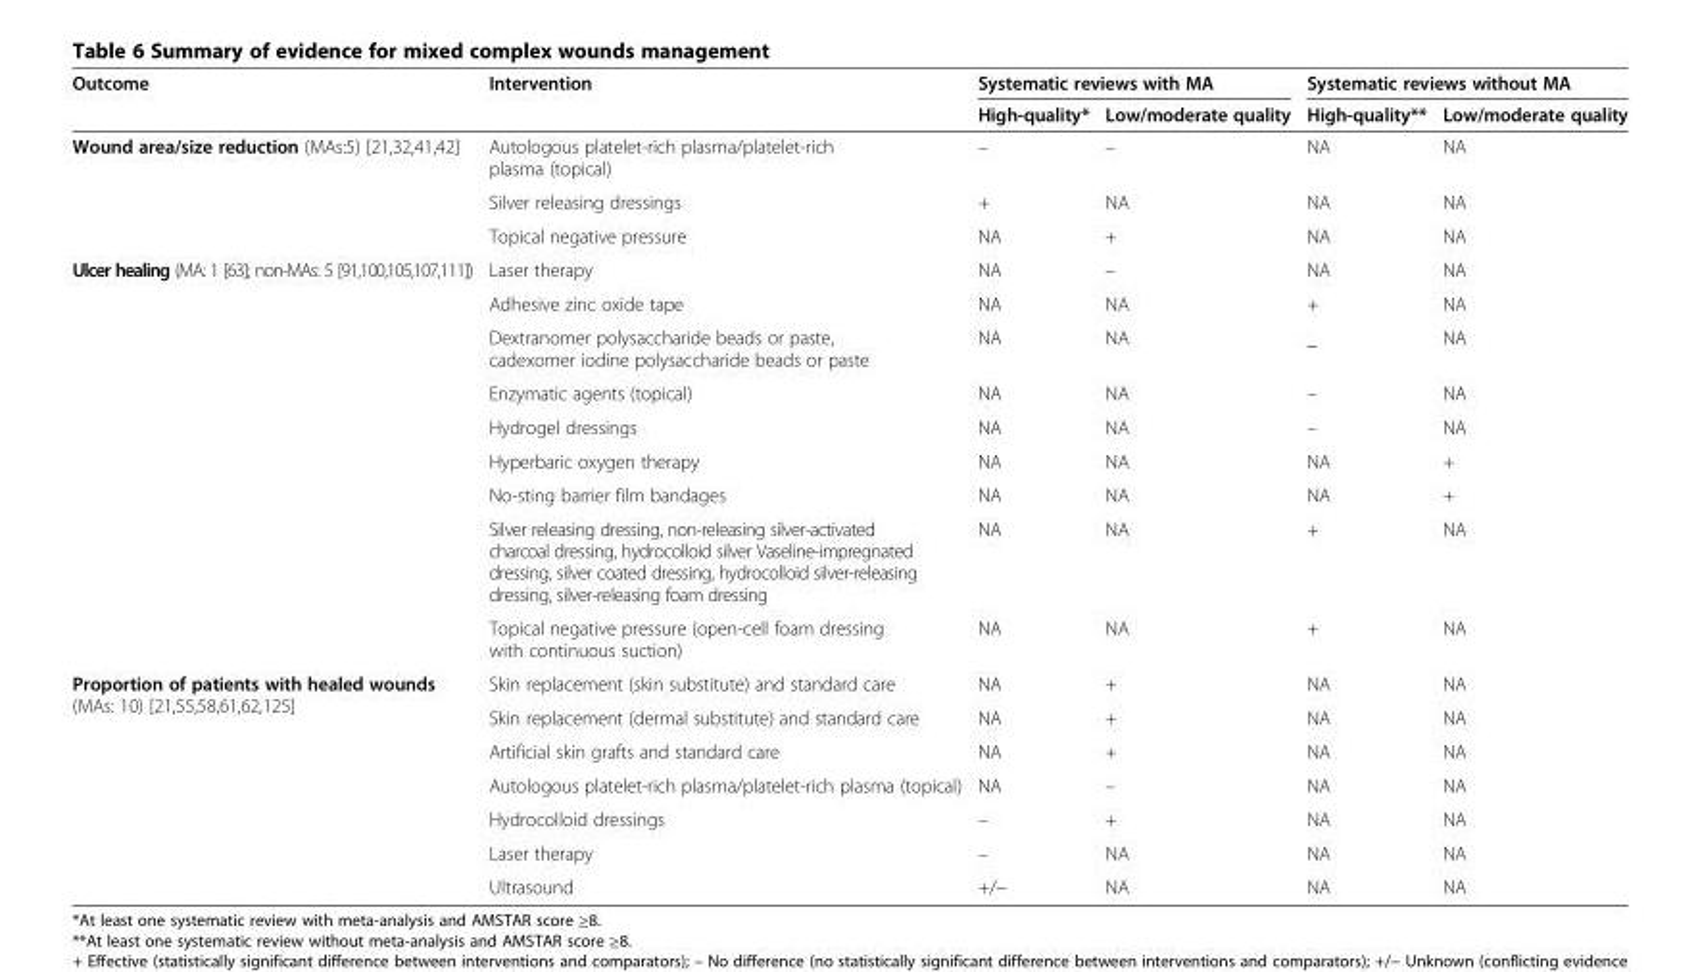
<table><thead><tr><td rowspan="2">Outcome</td><td rowspan="2">Intervention</td><td colspan="2">Systematic reviews with MA</td><td colspan="2">Systematic reviews without MA</td></tr><tr><td>High-quality*</td><td>Low/moderate quality</td><td>High-quality**</td><td>Low/moderate quality</td></tr></thead><tbody><tr><td rowspan="3">Wound area/size reduction (MAs:5) [21,32,41,42]</td><td>Autologous platelet-rich plasma/platelet-rich plasma (topical)</td><td>–</td><td>–</td><td>NA</td><td>NA</td></tr><tr><td>Silver releasing dressings</td><td>+</td><td>NA</td><td>NA</td><td>NA</td></tr><tr><td>Topical negative pressure</td><td>NA</td><td>+</td><td>NA</td><td>NA</td></tr><tr><td rowspan="9">Ulcer healing (MA: 1 [63]; non-MAs: 5 [91,100,105,107,111])</td><td>Laser therapy</td><td>NA</td><td>–</td><td>NA</td><td>NA</td></tr><tr><td>Adhesive zinc oxide tape</td><td>NA</td><td>NA</td><td>+</td><td>NA</td></tr><tr><td>Dextranomer polysaccharide beads or paste, cadexomer iodine polysaccharide beads or paste</td><td>NA</td><td>NA</td><td>_</td><td>NA</td></tr><tr><td>Enzymatic agents (topical)</td><td>NA</td><td>NA</td><td>–</td><td>NA</td></tr><tr><td>Hydrogel dressings</td><td>NA</td><td>NA</td><td>–</td><td>NA</td></tr><tr><td>Hyperbaric oxygen therapy</td><td>NA</td><td>NA</td><td>NA</td><td>+</td></tr><tr><td>No-sting barrier film bandages</td><td>NA</td><td>NA</td><td>NA</td><td>+</td></tr><tr><td>Silver releasing dressing, non-releasing silver-activated charcoal dressing, hydrocolloid silver Vaseline-impregnated dressing, silver coated dressing, hydrocolloid silver-releasing dressing, silver-releasing foam dressing</td><td>NA</td><td>NA</td><td>+</td><td>NA</td></tr><tr><td>Topical negative pressure (open-cell foam dressing with continuous suction)</td><td>NA</td><td>NA</td><td>+</td><td>NA</td></tr><tr><td rowspan="7">Proportion of patients with healed wounds (MAs: 10) [21,55,58,61,62,125]</td><td>Skin replacement (skin substitute) and standard care</td><td>NA</td><td>+</td><td>NA</td><td>NA</td></tr><tr><td>Skin replacement (dermal substitute) and standard care</td><td>NA</td><td>+</td><td>NA</td><td>NA</td></tr><tr><td>Artificial skin grafts and standard care</td><td>NA</td><td>+</td><td>NA</td><td>NA</td></tr><tr><td>Autologous platelet-rich plasma/platelet-rich plasma (topical)</td><td>NA</td><td>–</td><td>NA</td><td>NA</td></tr><tr><td>Hydrocolloid dressings</td><td>–</td><td>+</td><td>NA</td><td>NA</td></tr><tr><td>Laser therapy</td><td>–</td><td>NA</td><td>NA</td><td>NA</td></tr><tr><td>Ultrasound</td><td>+/−</td><td>NA</td><td>NA</td><td>NA</td></tr></tbody></table>